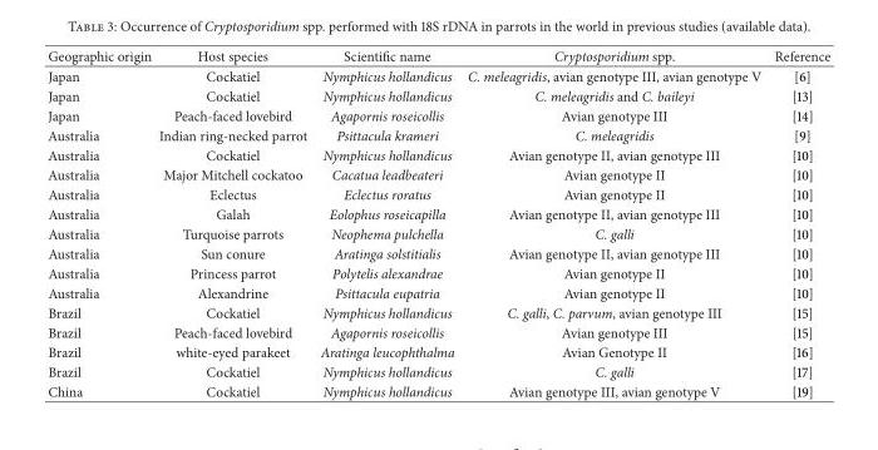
<table><thead><tr><td>Geographic origin</td><td>Host species</td><td>Scientific name</td><td>Cryptosporidium spp.</td><td>Reference</td></tr></thead><tbody><tr><td>Japan</td><td>Cockatiel</td><td>Nymphicus hollandicus</td><td>C. meleagridis, avian genotype III, avian genotype V</td><td>[6]</td></tr><tr><td>Japan</td><td>Cockatiel</td><td>Nymphicus hollandicus</td><td>C. meleagridis and C. baileyi</td><td>[13]</td></tr><tr><td>Japan</td><td>Peach-faced lovebird</td><td>Agapornis roseicollis</td><td>Avian genotype III</td><td>[14]</td></tr><tr><td>Australia</td><td>Indian ring-necked parrot</td><td>Psittacula krameri</td><td>C. meleagridis</td><td>[9]</td></tr><tr><td>Australia</td><td>Cockatiel</td><td>Nymphicus hollandicus</td><td>Avian genotype II, avian genotype III</td><td>[10]</td></tr><tr><td>Australia</td><td>Major Mitchell cockatoo</td><td>Cacatua leadbeateri</td><td>Avian genotype II</td><td>[10]</td></tr><tr><td>Australia</td><td>Eclectus</td><td>Eclectus roratus</td><td>Avian genotype II</td><td>[10]</td></tr><tr><td>Australia</td><td>Galah</td><td>Eolophus roseicapilla</td><td>Avian genotype II, avian genotype III</td><td>[10]</td></tr><tr><td>Australia</td><td>Turquoise parrots</td><td>Neophema pulchella</td><td>C. galli</td><td>[10]</td></tr><tr><td>Australia</td><td>Sun conure</td><td>Aratinga solstitialis</td><td>Avian genotype II, avian genotype III</td><td>[10]</td></tr><tr><td>Australia</td><td>Princess parrot</td><td>Polytelis alexandrae</td><td>Avian genotype II</td><td>[10]</td></tr><tr><td>Australia</td><td>Alexandrine</td><td>Psittacula eupatria</td><td>Avian genotype II</td><td>[10]</td></tr><tr><td>Brazil</td><td>Cockatiel</td><td>Nymphicus hollandicus</td><td>C. galli, C. parvum, avian genotype III</td><td>[15]</td></tr><tr><td>Brazil</td><td>Peach-faced lovebird</td><td>Agapornis roseicollis</td><td>Avian genotype III</td><td>[15]</td></tr><tr><td>Brazil</td><td>white-eyed parakeet</td><td>Aratinga leucophthalma</td><td>Avian Genotype II</td><td>[16]</td></tr><tr><td>Brazil</td><td>Cockatiel</td><td>Nymphicus hollandicus</td><td>C. galli</td><td>[17]</td></tr><tr><td>China</td><td>Cockatiel</td><td>Nymphicus hollandicus</td><td>Avian genotype III, avian genotype V</td><td>[19]</td></tr></tbody></table>